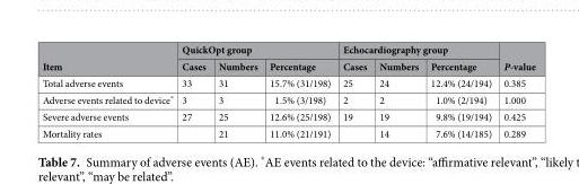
<table><thead><tr><td rowspan="2">Item</td><td colspan="3">QuickOpt group</td><td colspan="3">Echocardiography group</td><td rowspan="2">P-value</td></tr><tr><td>Cases</td><td>Numbers</td><td>Percentage</td><td>Cases</td><td>Numbers</td><td>Percentage</td></tr></thead><tbody><tr><td>Total adverse events</td><td>33</td><td>31</td><td>15.7% (31/198)</td><td>25</td><td>24</td><td>12.4% (24/194)</td><td>0.385</td></tr><tr><td>Adverse events related to device*</td><td>3</td><td>3</td><td>1.5% (3/198)</td><td>2</td><td>2</td><td>1.0% (2/194)</td><td>1.000</td></tr><tr><td>Severe adverse events</td><td>27</td><td>25</td><td>12.6% (25/198)</td><td>19</td><td>19</td><td>9.8% (19/194)</td><td>0.425</td></tr><tr><td>Mortality rates</td><td></td><td>21</td><td>11.0% (21/191)</td><td></td><td>14</td><td>7.6% (14/185)</td><td>0.289</td></tr></tbody></table>